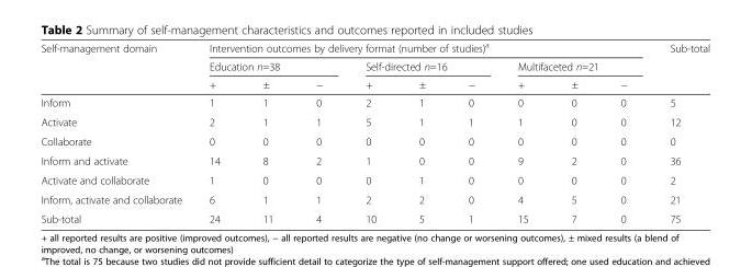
<table><thead><tr><td rowspan="3">Self-management domain</td><td colspan="9">Intervention outcomes by delivery format (number of studies)<sup>a</sup></td><td rowspan="3">Sub-total</td></tr><tr><td colspan="3">Education n=38</td><td colspan="3">Self-directed n=16</td><td colspan="3">Multifaceted n=21</td></tr><tr><td>+</td><td>±</td><td>−</td><td>+</td><td>±</td><td>−</td><td>+</td><td>±</td><td>−</td></tr></thead><tbody><tr><td>Inform</td><td>1</td><td>1</td><td>0</td><td>2</td><td>1</td><td>0</td><td>0</td><td>0</td><td>0</td><td>5</td></tr><tr><td>Activate</td><td>2</td><td>1</td><td>1</td><td>5</td><td>1</td><td>1</td><td>1</td><td>0</td><td>0</td><td>12</td></tr><tr><td>Collaborate</td><td>0</td><td>0</td><td>0</td><td>0</td><td>0</td><td>0</td><td>0</td><td>0</td><td>0</td><td>0</td></tr><tr><td>Inform and activate</td><td>14</td><td>8</td><td>2</td><td>1</td><td>0</td><td>0</td><td>9</td><td>2</td><td>0</td><td>36</td></tr><tr><td>Activate and collaborate</td><td>1</td><td>0</td><td>0</td><td>0</td><td>1</td><td>0</td><td>0</td><td>0</td><td>0</td><td>2</td></tr><tr><td>Inform, activate and collaborate</td><td>6</td><td>1</td><td>1</td><td>2</td><td>2</td><td>0</td><td>4</td><td>5</td><td>0</td><td>21</td></tr><tr><td>Sub-total</td><td>24</td><td>11</td><td>4</td><td>10</td><td>5</td><td>1</td><td>15</td><td>7</td><td>0</td><td>75</td></tr></tbody></table>